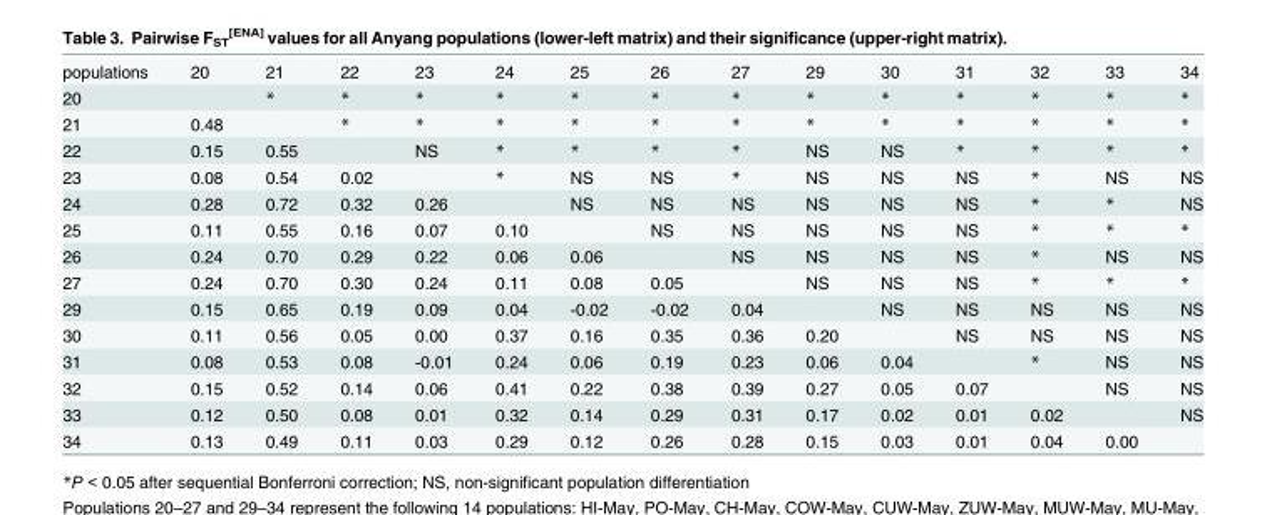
<table><tbody><tr><td>populations</td><td>20</td><td>21</td><td>22</td><td>23</td><td>24</td><td>25</td><td>26</td><td>27</td><td>29</td><td>30</td><td>31</td><td>32</td><td>33</td><td>34</td></tr><tr><td>20</td><td></td><td>*</td><td>*</td><td>*</td><td>*</td><td>*</td><td>*</td><td>*</td><td>*</td><td>*</td><td>*</td><td>*</td><td>*</td><td>*</td></tr><tr><td>21</td><td>0.48</td><td></td><td>*</td><td>*</td><td>*</td><td>*</td><td>*</td><td>*</td><td>*</td><td>*</td><td>*</td><td>*</td><td>*</td><td>*</td></tr><tr><td>22</td><td>0.15</td><td>0.55</td><td></td><td>NS</td><td>*</td><td>*</td><td>*</td><td>*</td><td>NS</td><td>NS</td><td>*</td><td>*</td><td>*</td><td>*</td></tr><tr><td>23</td><td>0.08</td><td>0.54</td><td>0.02</td><td></td><td>*</td><td>NS</td><td>NS</td><td>*</td><td>NS</td><td>NS</td><td>NS</td><td>*</td><td>NS</td><td>NS</td></tr><tr><td>24</td><td>0.28</td><td>0.72</td><td>0.32</td><td>0.26</td><td></td><td>NS</td><td>NS</td><td>NS</td><td>NS</td><td>NS</td><td>NS</td><td>*</td><td>*</td><td>NS</td></tr><tr><td>25</td><td>0.11</td><td>0.55</td><td>0.16</td><td>0.07</td><td>0.10</td><td></td><td>NS</td><td>NS</td><td>NS</td><td>NS</td><td>NS</td><td>*</td><td>*</td><td>*</td></tr><tr><td>26</td><td>0.24</td><td>0.70</td><td>0.29</td><td>0.22</td><td>0.06</td><td>0.06</td><td></td><td>NS</td><td>NS</td><td>NS</td><td>NS</td><td>*</td><td>NS</td><td>NS</td></tr><tr><td>27</td><td>0.24</td><td>0.70</td><td>0.30</td><td>0.24</td><td>0.11</td><td>0.08</td><td>0.05</td><td></td><td>NS</td><td>NS</td><td>NS</td><td>*</td><td>*</td><td>*</td></tr><tr><td>29</td><td>0.15</td><td>0.65</td><td>0.19</td><td>0.09</td><td>0.04</td><td>-0.02</td><td>-0.02</td><td>0.04</td><td></td><td>NS</td><td>NS</td><td>NS</td><td>NS</td><td>NS</td></tr><tr><td>30</td><td>0.11</td><td>0.56</td><td>0.05</td><td>0.00</td><td>0.37</td><td>0.16</td><td>0.35</td><td>0.36</td><td>0.20</td><td></td><td>NS</td><td>NS</td><td>NS</td><td>NS</td></tr><tr><td>31</td><td>0.08</td><td>0.53</td><td>0.08</td><td>-0.01</td><td>0.24</td><td>0.06</td><td>0.19</td><td>0.23</td><td>0.06</td><td>0.04</td><td></td><td>*</td><td>NS</td><td>NS</td></tr><tr><td>32</td><td>0.15</td><td>0.52</td><td>0.14</td><td>0.06</td><td>0.41</td><td>0.22</td><td>0.38</td><td>0.39</td><td>0.27</td><td>0.05</td><td>0.07</td><td></td><td>NS</td><td>NS</td></tr><tr><td>33</td><td>0.12</td><td>0.50</td><td>0.08</td><td>0.01</td><td>0.32</td><td>0.14</td><td>0.29</td><td>0.31</td><td>0.17</td><td>0.02</td><td>0.01</td><td>0.02</td><td></td><td>NS</td></tr><tr><td>34</td><td>0.13</td><td>0.49</td><td>0.11</td><td>0.03</td><td>0.29</td><td>0.12</td><td>0.26</td><td>0.28</td><td>0.15</td><td>0.03</td><td>0.01</td><td>0.04</td><td>0.00</td><td></td></tr></tbody></table>